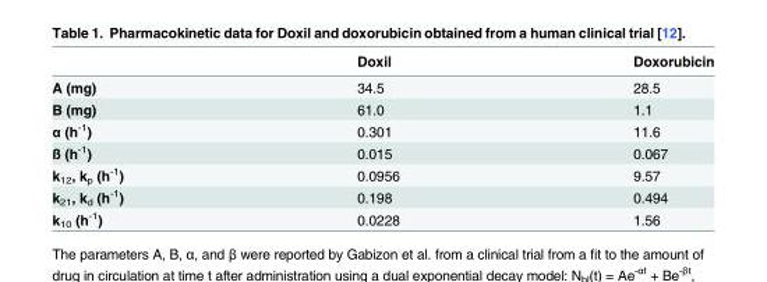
<table><thead><tr><td></td><td>Doxil</td><td>Doxorubicin</td></tr></thead><tbody><tr><td>A (mg)</td><td>34.5</td><td>28.5</td></tr><tr><td>B (mg)</td><td>61.0</td><td>1.1</td></tr><tr><td>α (h<sup>-1</sup>)</td><td>0.301</td><td>11.6</td></tr><tr><td>ß (h<sup>-1</sup>)</td><td>0.015</td><td>0.067</td></tr><tr><td>k<sub>12</sub>, k<sub>p</sub> (h<sup>-1</sup>)</td><td>0.0956</td><td>9.57</td></tr><tr><td>k<sub>21</sub>, k<sub>d</sub> (h<sup>-1</sup>)</td><td>0.198</td><td>0.494</td></tr><tr><td>k<sub>10</sub> (h<sup>-1</sup>)</td><td>0.0228</td><td>1.56</td></tr></tbody></table>